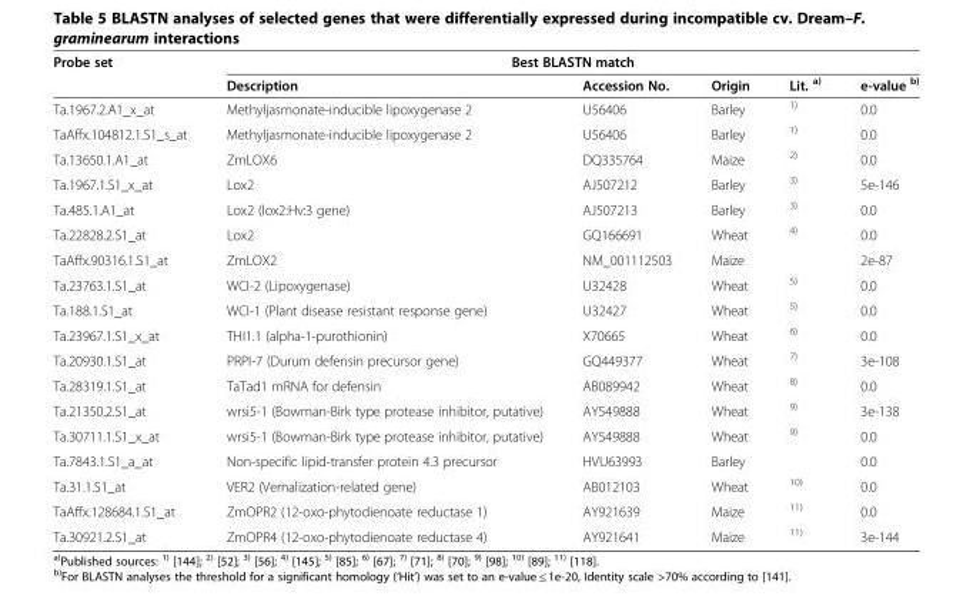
<table><thead><tr><td rowspan="2">Probe set</td><td colspan="5">Best BLASTN match</td></tr><tr><td>Description</td><td>Accession No.</td><td>Origin</td><td>Lit. <sup>a)</sup></td><td>e-value <sup>b)</sup></td></tr></thead><tbody><tr><td>Ta.1967.2.A1_x_at</td><td>Methyljasmonate-inducible lipoxygenase 2</td><td>U56406</td><td>Barley</td><td><sup>1)</sup></td><td>0.0</td></tr><tr><td>TaAffx.104812.1.S1_s_at</td><td>Methyljasmonate-inducible lipoxygenase 2</td><td>U56406</td><td>Barley</td><td><sup>1)</sup></td><td>0.0</td></tr><tr><td>Ta.13650.1.A1_at</td><td>ZmLOX6</td><td>DQ335764</td><td>Maize</td><td><sup>2)</sup></td><td>0.0</td></tr><tr><td>Ta.1967.1.S1_x_at</td><td>Lox2</td><td>AJ507212</td><td>Barley</td><td><sup>3)</sup></td><td>5e-146</td></tr><tr><td>Ta.485.1.A1_at</td><td>Lox2 (lox2:Hv:3 gene)</td><td>AJ507213</td><td>Barley</td><td><sup>3)</sup></td><td>0.0</td></tr><tr><td>Ta.22828.2.S1_at</td><td>Lox2</td><td>GQ166691</td><td>Wheat</td><td><sup>4)</sup></td><td>0.0</td></tr><tr><td>TaAffx.90316.1.S1_at</td><td>ZmLOX2</td><td>NM_001112503</td><td>Maize</td><td></td><td>2e-87</td></tr><tr><td>Ta.23763.1.S1_at</td><td>WCI-2 (Lipoxygenase)</td><td>U32428</td><td>Wheat</td><td><sup>5)</sup></td><td>0.0</td></tr><tr><td>Ta.188.1.S1_at</td><td>WCI-1 (Plant disease resistant response gene)</td><td>U32427</td><td>Wheat</td><td><sup>5)</sup></td><td>0.0</td></tr><tr><td>Ta.23967.1.S1_x_at</td><td>THI1.1 (alpha-1-purothionin)</td><td>X70665</td><td>Wheat</td><td><sup>6)</sup></td><td>0.0</td></tr><tr><td>Ta.20930.1.S1_at</td><td>PRPI-7 (Durum defensin precursor gene)</td><td>GQ449377</td><td>Wheat</td><td><sup>7)</sup></td><td>3e-108</td></tr><tr><td>Ta.28319.1.S1_at</td><td>TaTad1 mRNA for defensin</td><td>AB089942</td><td>Wheat</td><td><sup>8)</sup></td><td>0.0</td></tr><tr><td>Ta.21350.2.S1_at</td><td>wrsi5-1 (Bowman-Birk type protease inhibitor, putative)</td><td>AY549888</td><td>Wheat</td><td><sup>9)</sup></td><td>3e-138</td></tr><tr><td>Ta.30711.1.S1_x_at</td><td>wrsi5-1 (Bowman-Birk type protease inhibitor, putative)</td><td>AY549888</td><td>Wheat</td><td><sup>9)</sup></td><td>0.0</td></tr><tr><td>Ta.7843.1.S1_a_at</td><td>Non-specific lipid-transfer protein 4.3 precursor</td><td>HVU63993</td><td>Barley</td><td></td><td>0.0</td></tr><tr><td>Ta.31.1.S1_at</td><td>VER2 (Vernalization-related gene)</td><td>AB012103</td><td>Wheat</td><td><sup>10)</sup></td><td>0.0</td></tr><tr><td>TaAffx.128684.1.S1_at</td><td>ZmOPR2 (12-oxo-phytodienoate reductase 1)</td><td>AY921639</td><td>Maize</td><td><sup>11)</sup></td><td>0.0</td></tr><tr><td>Ta.30921.2.S1_at</td><td>ZmOPR4 (12-oxo-phytodienoate reductase 4)</td><td>AY921641</td><td>Maize</td><td><sup>11)</sup></td><td>3e-144</td></tr></tbody></table>